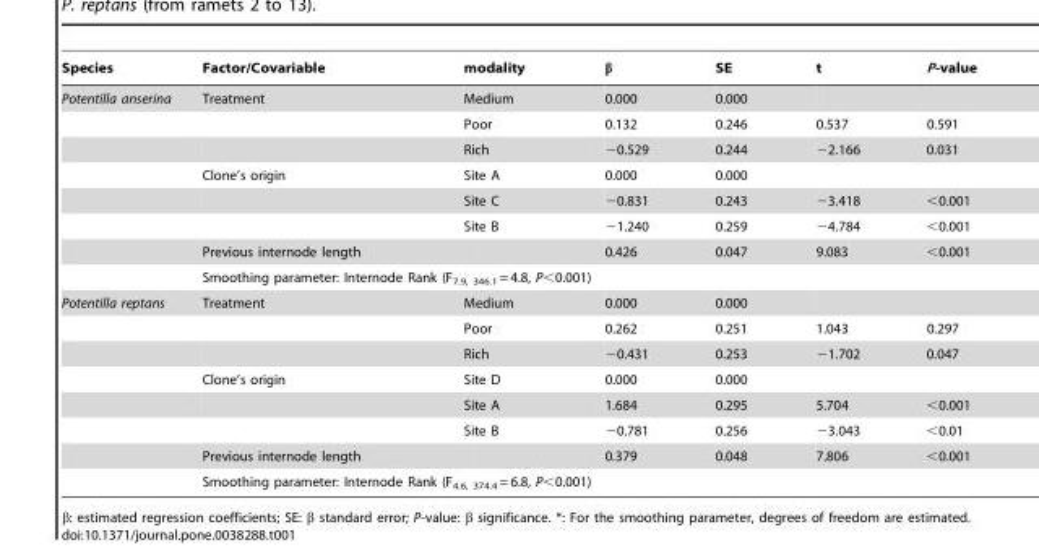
<table><thead><tr><td>Species</td><td>Factor/Covariable</td><td>modality</td><td>β</td><td>SE</td><td>t</td><td>P-value</td></tr></thead><tbody><tr><td rowspan="8">Potentilla anserina</td><td>Treatment</td><td>Medium</td><td>0.000</td><td>0.000</td><td></td><td></td></tr><tr><td></td><td>Poor</td><td>0.132</td><td>0.246</td><td>0.537</td><td>0.591</td></tr><tr><td></td><td>Rich</td><td>−0.529</td><td>0.244</td><td>−2.166</td><td>0.031</td></tr><tr><td>Clone’s origin</td><td>Site A</td><td>0.000</td><td>0.000</td><td></td><td></td></tr><tr><td></td><td>Site C</td><td>−0.831</td><td>0.243</td><td>−3.418</td><td>&lt;0.001</td></tr><tr><td></td><td>Site B</td><td>−1.240</td><td>0.259</td><td>−4.784</td><td>&lt;0.001</td></tr><tr><td>Previous internode length</td><td></td><td>0.426</td><td>0.047</td><td>9.083</td><td>&lt;0.001</td></tr><tr><td colspan="6">Smoothing parameter: Internode Rank (F<sub>7.9, 346.1</sub> = 4.8, P&lt;0.001)</td></tr><tr><td rowspan="8">Potentilla reptans</td><td>Treatment</td><td>Medium</td><td>0.000</td><td>0.000</td><td></td><td></td></tr><tr><td></td><td>Poor</td><td>0.262</td><td>0.251</td><td>1.043</td><td>0.297</td></tr><tr><td></td><td>Rich</td><td>−0.431</td><td>0.253</td><td>−1.702</td><td>0.047</td></tr><tr><td>Clone’s origin</td><td>Site D</td><td>0.000</td><td>0.000</td><td></td><td></td></tr><tr><td></td><td>Site A</td><td>1.684</td><td>0.295</td><td>5.704</td><td>&lt;0.001</td></tr><tr><td></td><td>Site B</td><td>−0.781</td><td>0.256</td><td>−3.043</td><td>&lt;0.01</td></tr><tr><td>Previous internode length</td><td></td><td>0.379</td><td>0.048</td><td>7.806</td><td>&lt;0.001</td></tr><tr><td colspan="6">Smoothing parameter: Internode Rank (F<sub>4.6, 374.4</sub> = 6.8, P&lt;0.001)</td></tr></tbody></table>